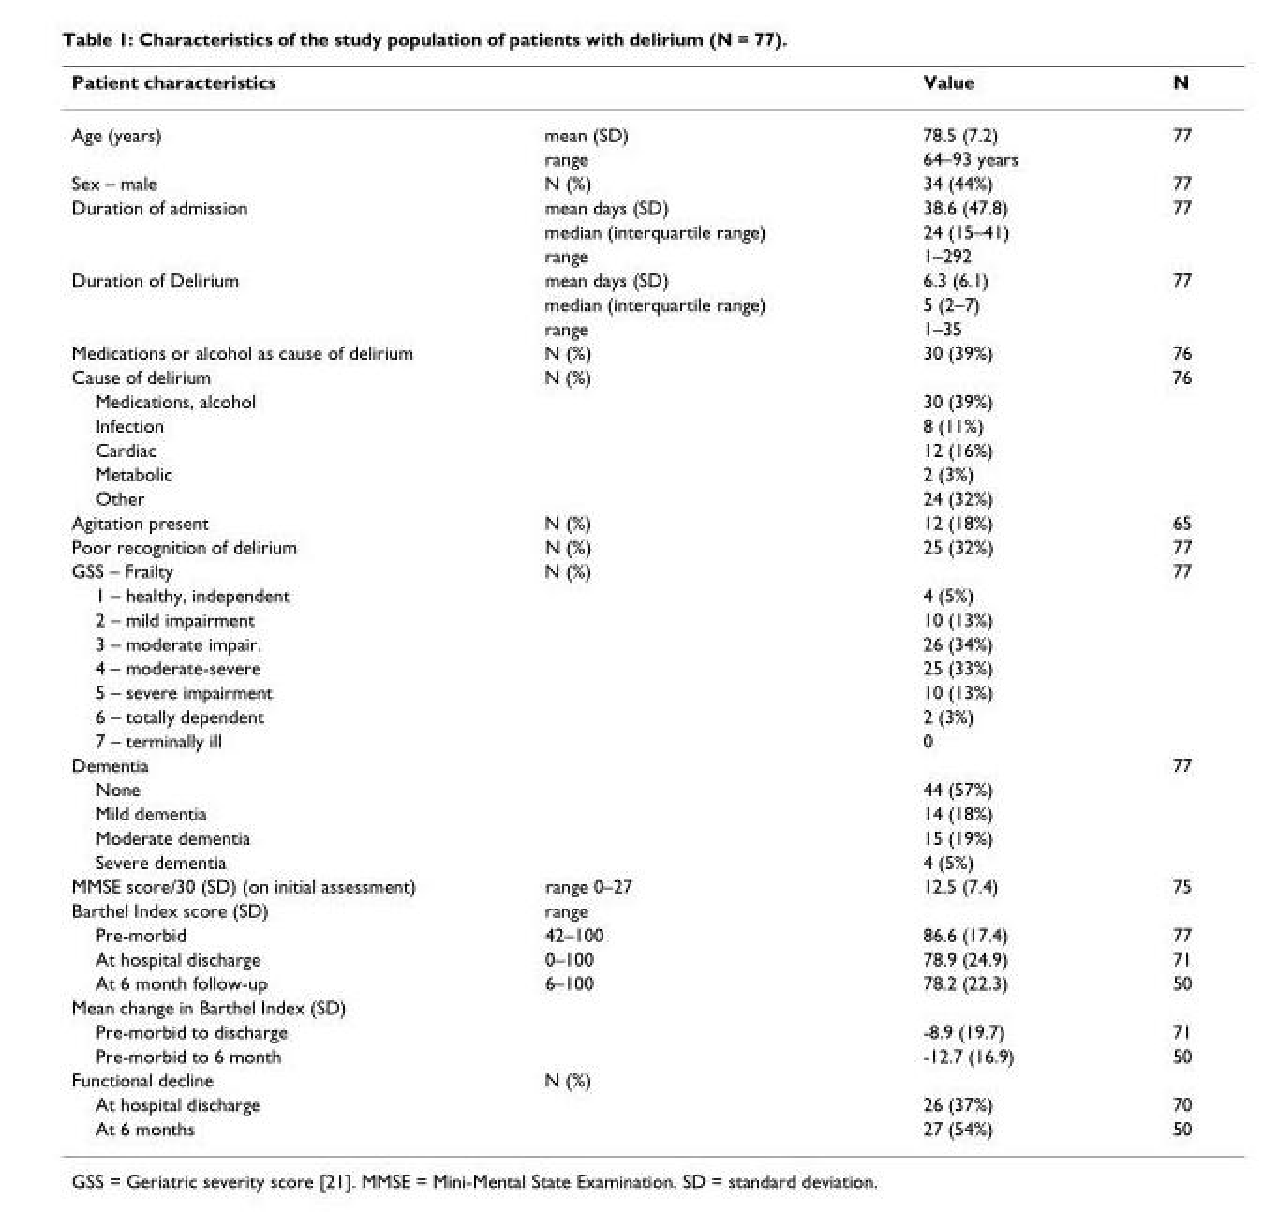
<table><thead><tr><td colspan="2">Patient characteristics</td><td rowspan="2">Value 78.5 (7.2)</td><td rowspan="2">N 77</td></tr><tr><td>Age (years)</td><td>mean (SD)</td></tr></thead><tbody><tr><td></td><td>range</td><td>64–93 years</td><td></td></tr><tr><td>Sex – male</td><td>N (%)</td><td>34 (44%)</td><td>77</td></tr><tr><td rowspan="3">Duration of admission</td><td>mean days (SD)</td><td>38.6 (47.8)</td><td>77</td></tr><tr><td>median (interquartile range)</td><td>24 (15–41)</td><td></td></tr><tr><td>range</td><td>1–292</td><td></td></tr><tr><td rowspan="3">Duration of Delirium</td><td>mean days (SD)</td><td>6.3 (6.1)</td><td>77</td></tr><tr><td>median (interquartile range)</td><td>5 (2–7)</td><td></td></tr><tr><td>range</td><td>1–35</td><td></td></tr><tr><td>Medications or alcohol as cause of delirium</td><td>N (%)</td><td>30 (39%)</td><td>76</td></tr><tr><td>Cause of delirium</td><td>N (%)</td><td></td><td>76</td></tr><tr><td>Medications, alcohol</td><td></td><td>30 (39%)</td><td></td></tr><tr><td>Infection</td><td></td><td>8 (11%)</td><td></td></tr><tr><td>Cardiac</td><td></td><td>12 (16%)</td><td></td></tr><tr><td>Metabolic</td><td></td><td>2 (3%)</td><td></td></tr><tr><td>Other</td><td></td><td>24 (32%)</td><td></td></tr><tr><td>Agitation present</td><td>N (%)</td><td>12 (18%)</td><td>65</td></tr><tr><td>Poor recognition of delirium</td><td>N (%)</td><td>25 (32%)</td><td>77</td></tr><tr><td>GSS – Frailty</td><td>N (%)</td><td></td><td>77</td></tr><tr><td>1 – healthy, independent</td><td></td><td>4 (5%)</td><td></td></tr><tr><td>2 – mild impairment</td><td></td><td>10 (13%)</td><td></td></tr><tr><td>3 – moderate impair.</td><td></td><td>26 (34%)</td><td></td></tr><tr><td>4 – moderate-severe</td><td></td><td>25 (33%)</td><td></td></tr><tr><td>5 – severe impairment</td><td></td><td>10 (13%)</td><td></td></tr><tr><td>6 – totally dependent</td><td></td><td>2 (3%)</td><td></td></tr><tr><td>7 – terminally ill</td><td></td><td>0</td><td></td></tr><tr><td>Dementia</td><td></td><td></td><td>77</td></tr><tr><td>None</td><td></td><td>44 (57%)</td><td></td></tr><tr><td>Mild dementia</td><td></td><td>14 (18%)</td><td></td></tr><tr><td>Moderate dementia</td><td></td><td>15 (19%)</td><td></td></tr><tr><td>Severe dementia</td><td></td><td>4 (5%)</td><td></td></tr><tr><td>MMSE score/30 (SD) (on initial assessment)</td><td>range 0–27</td><td>12.5 (7.4)</td><td>75</td></tr><tr><td>Barthel Index score (SD)</td><td>range</td><td></td><td></td></tr><tr><td>Pre-morbid</td><td>42–100</td><td>86.6 (17.4)</td><td>77</td></tr><tr><td>At hospital discharge</td><td>0–100</td><td>78.9 (24.9)</td><td>71</td></tr><tr><td>At 6 month follow-up</td><td>6–100</td><td>78.2 (22.3)</td><td>50</td></tr><tr><td colspan="4">Mean change in Barthel Index (SD)</td></tr><tr><td>Pre-morbid to discharge</td><td></td><td>-8.9 (19.7)</td><td>71</td></tr><tr><td>Pre-morbid to 6 month</td><td></td><td>-12.7 (16.9)</td><td>50</td></tr><tr><td>Functional decline</td><td>N (%)</td><td></td><td></td></tr><tr><td>At hospital discharge</td><td></td><td>26 (37%)</td><td>70</td></tr><tr><td>At 6 months</td><td></td><td>27 (54%)</td><td>50</td></tr></tbody></table>